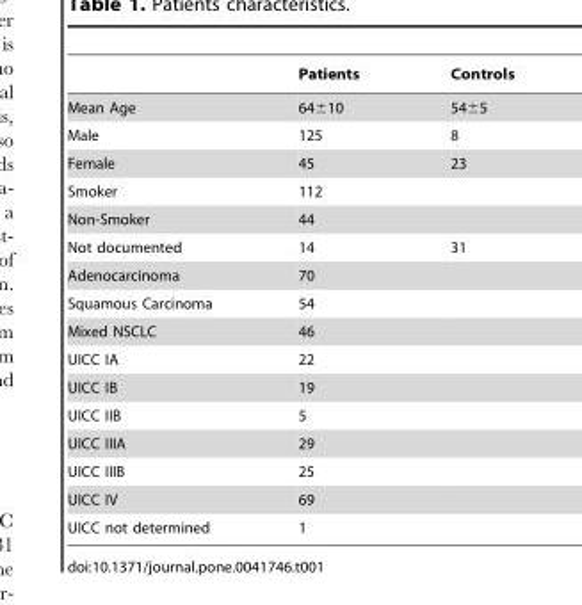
<table><thead><tr><td></td><td>Patients</td><td>Controls</td></tr></thead><tbody><tr><td>Mean Age</td><td>64±10</td><td>54±5</td></tr><tr><td>Male</td><td>125</td><td>8</td></tr><tr><td>Female</td><td>45</td><td>23</td></tr><tr><td>Smoker</td><td>112</td><td></td></tr><tr><td>Non-Smoker</td><td>44</td><td></td></tr><tr><td>Not documented</td><td>14</td><td>31</td></tr><tr><td>Adenocarcinoma</td><td>70</td><td></td></tr><tr><td>Squamous Carcinoma</td><td>54</td><td></td></tr><tr><td>Mixed NSCLC</td><td>46</td><td></td></tr><tr><td>UICC IA</td><td>22</td><td></td></tr><tr><td>UICC IB</td><td>19</td><td></td></tr><tr><td>UICC IIB</td><td>5</td><td></td></tr><tr><td>UICC IIIA</td><td>29</td><td></td></tr><tr><td>UICC IIIB</td><td>25</td><td></td></tr><tr><td>UICC IV</td><td>69</td><td></td></tr><tr><td>UICC not determined</td><td>1</td><td></td></tr></tbody></table>